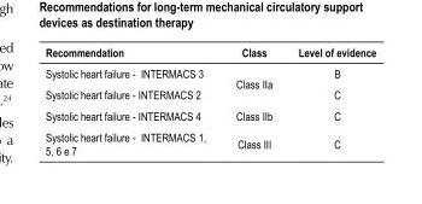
<table><thead><tr><td>Recommendation</td><td>Class</td><td>Level of evidence</td></tr></thead><tbody><tr><td>Systolic heart failure ‑ INTERMACS 3</td><td rowspan="2">Class IIa</td><td>B</td></tr><tr><td>Systolic heart failure ‑ INTERMACS 2</td><td>C</td></tr><tr><td>Systolic heart failure ‑ INTERMACS 4</td><td>Class IIb</td><td>C</td></tr><tr><td>Systolic heart failure ‑ INTERMACS 1, 5, 6 e 7</td><td>Class III</td><td>C</td></tr></tbody></table>